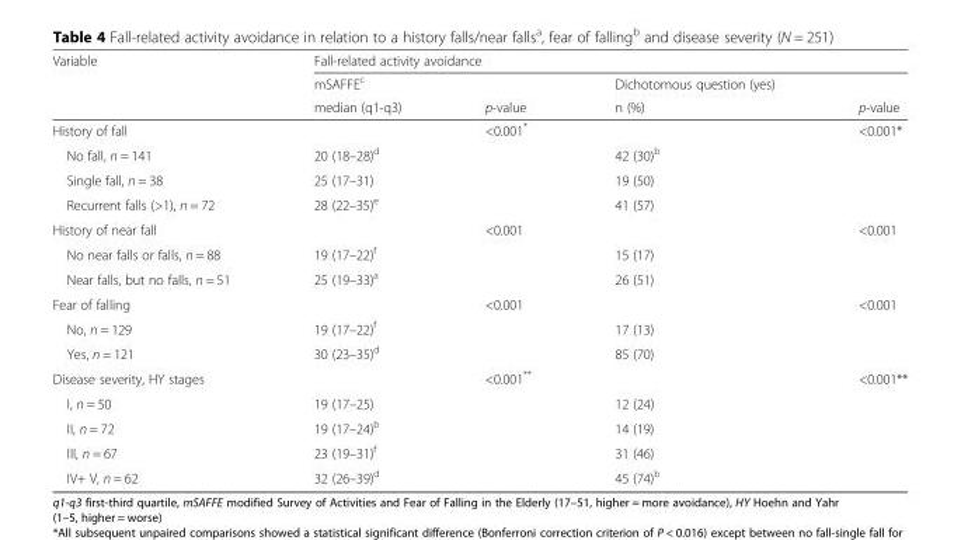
<table><thead><tr><td rowspan="3">Variable</td><td colspan="4">Fall-related activity avoidance</td></tr><tr><td rowspan="2">mSAFFE<sup>c</sup> median (q1-q3)</td><td rowspan="2">p-value</td><td rowspan="2">Dichotomous question (yes) n (%)</td><td rowspan="2">p-value</td></tr><tr></tr></thead><tbody><tr><td>History of fall</td><td></td><td>&lt;0.001*</td><td></td><td>&lt;0.001*</td></tr><tr><td>No fall, n = 141</td><td>20 (18–28)<sup>d</sup></td><td></td><td>42 (30)<sup>b</sup></td><td></td></tr><tr><td>Single fall, n = 38</td><td>25 (17–31)</td><td></td><td>19 (50)</td><td></td></tr><tr><td>Recurrent falls (&gt;1), n = 72</td><td>28 (22–35)<sup>e</sup></td><td></td><td>41 (57)</td><td></td></tr><tr><td>History of near fall</td><td></td><td>&lt;0.001</td><td></td><td>&lt;0.001</td></tr><tr><td>No near falls or falls, n = 88</td><td>19 (17–22)<sup>f</sup></td><td></td><td>15 (17)</td><td></td></tr><tr><td>Near falls, but no falls, n = 51</td><td>25 (19–33)<sup>a</sup></td><td></td><td>26 (51)</td><td></td></tr><tr><td>Fear of falling</td><td></td><td>&lt;0.001</td><td></td><td>&lt;0.001</td></tr><tr><td>No, n = 129</td><td>19 (17–22)<sup>f</sup></td><td></td><td>17 (13)</td><td></td></tr><tr><td>Yes, n = 121</td><td>30 (23–35)<sup>d</sup></td><td></td><td>85 (70)</td><td></td></tr><tr><td>Disease severity, HY stages</td><td></td><td>&lt;0.001**</td><td></td><td>&lt;0.001**</td></tr><tr><td>I, n = 50</td><td>19 (17–25)</td><td></td><td>12 (24)</td><td></td></tr><tr><td>II, n = 72</td><td>19 (17–24)<sup>b</sup></td><td></td><td>14 (19)</td><td></td></tr><tr><td>III, n = 67</td><td>23 (19–31)<sup>f</sup></td><td></td><td>31 (46)</td><td></td></tr><tr><td>IV+ V, n = 62</td><td>32 (26–39)<sup>d</sup></td><td></td><td>45 (74)<sup>b</sup></td><td></td></tr></tbody></table>